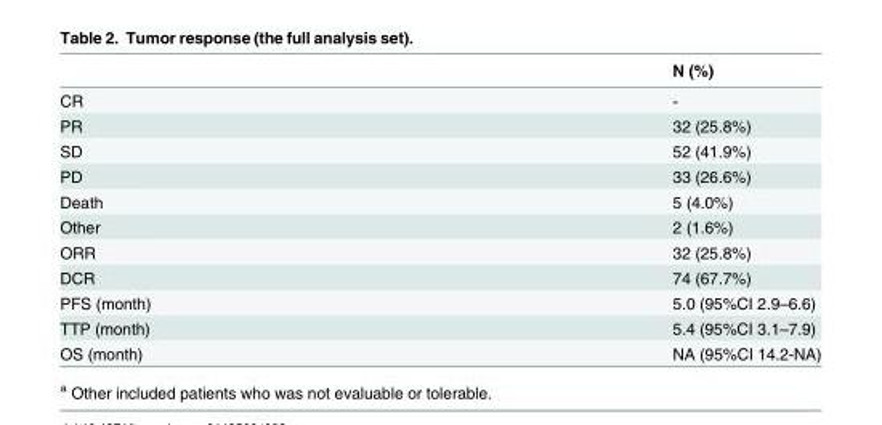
<table><thead><tr><td></td><td>N (%)</td></tr></thead><tbody><tr><td>CR</td><td>-</td></tr><tr><td>PR</td><td>32 (25.8%)</td></tr><tr><td>SD</td><td>52 (41.9%)</td></tr><tr><td>PD</td><td>33 (26.6%)</td></tr><tr><td>Death</td><td>5 (4.0%)</td></tr><tr><td>Other</td><td>2 (1.6%)</td></tr><tr><td>ORR</td><td>32 (25.8%)</td></tr><tr><td>DCR</td><td>74 (67.7%)</td></tr><tr><td>PFS (month)</td><td>5.0 (95%CI 2.9–6.6)</td></tr><tr><td>TTP (month)</td><td>5.4 (95%CI 3.1–7.9)</td></tr><tr><td>OS (month)</td><td>NA (95%CI 14.2-NA)</td></tr></tbody></table>